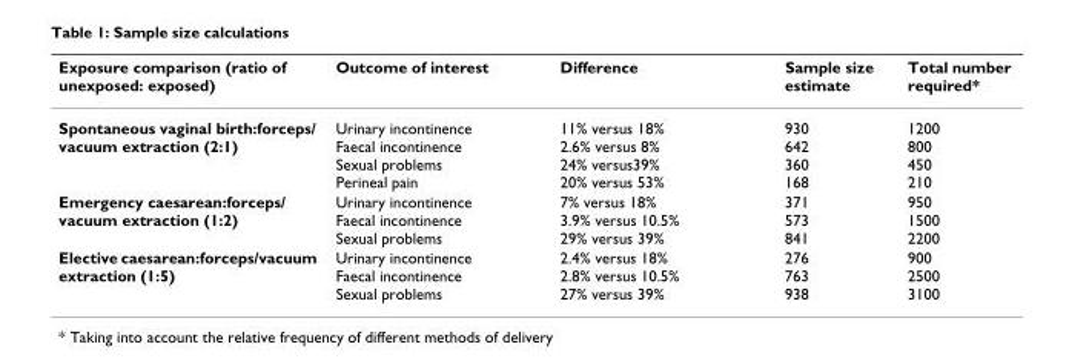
<table><thead><tr><td>Exposure comparison (ratio of unexposed: exposed)</td><td>Outcome of interest</td><td>Difference</td><td>Sample size estimate</td><td>Total number required*</td></tr></thead><tbody><tr><td>Spontaneous vaginal birth:forceps/ vacuum extraction (2:1)</td><td>Urinary incontinence Faecal incontinence Sexual problems Perineal pain</td><td>11% versus 18% 2.6% versus 8% 24% versus39% 20% versus 53%</td><td>930 642 360 168</td><td>1200 800 450 210</td></tr><tr><td>Emergency caesarean:forceps/ vacuum extraction (1:2)</td><td>Urinary incontinence Faecal incontinence Sexual problems</td><td>7% versus 18% 3.9% versus 10.5% 29% versus 39%</td><td>371 573 841</td><td>950 1500 2200</td></tr><tr><td>Elective caesarean:forceps/vacuum extraction (1:5)</td><td>Urinary incontinence Faecal incontinence Sexual problems</td><td>2.4% versus 18% 2.8% versus 10.5% 27% versus 39%</td><td>276 763 938</td><td>900 2500 3100</td></tr></tbody></table>